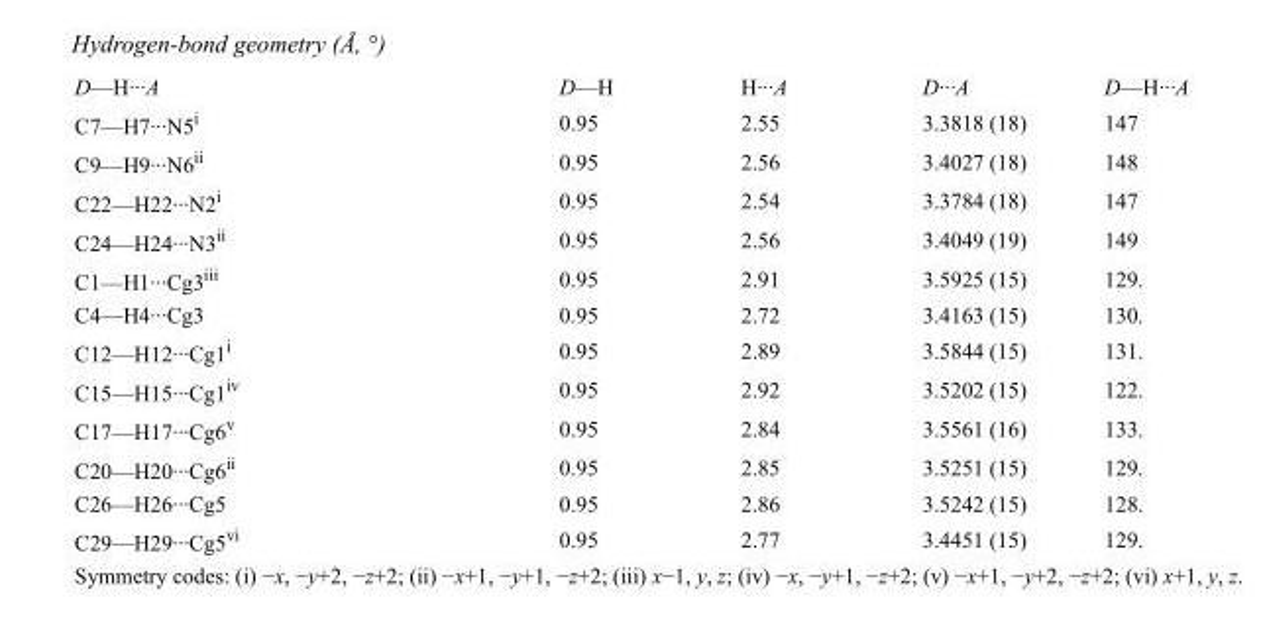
<table><tbody><tr><td>D—H···A</td><td>D—H</td><td>H···A</td><td>D···A</td><td>D—H···A</td></tr><tr><td>C7—H7···N5<sup>i</sup></td><td>0.95</td><td>2.55</td><td>3.3818 (18)</td><td>147</td></tr><tr><td>C9—H9···N6<sup>ii</sup></td><td>0.95</td><td>2.56</td><td>3.4027 (18)</td><td>148</td></tr><tr><td>C22—H22···N2<sup>i</sup></td><td>0.95</td><td>2.54</td><td>3.3784 (18)</td><td>147</td></tr><tr><td>C24—H24···N3<sup>ii</sup></td><td>0.95</td><td>2.56</td><td>3.4049 (19)</td><td>149</td></tr><tr><td>C1—H1···Cg3<sup>iii</sup></td><td>0.95</td><td>2.91</td><td>3.5925 (15)</td><td>129.</td></tr><tr><td>C4—H4···Cg3</td><td>0.95</td><td>2.72</td><td>3.4163 (15)</td><td>130.</td></tr><tr><td>C12—H12···Cg1<sup>i</sup></td><td>0.95</td><td>2.89</td><td>3.5844 (15)</td><td>131.</td></tr><tr><td>C15—H15···Cg1<sup>iv</sup></td><td>0.95</td><td>2.92</td><td>3.5202 (15)</td><td>122.</td></tr><tr><td>C17—H17···Cg6<sup>v</sup></td><td>0.95</td><td>2.84</td><td>3.5561 (16)</td><td>133.</td></tr><tr><td>C20—H20···Cg6<sup>ii</sup></td><td>0.95</td><td>2.85</td><td>3.5251 (15)</td><td>129.</td></tr><tr><td>C26—H26···Cg5</td><td>0.95</td><td>2.86</td><td>3.5242 (15)</td><td>128.</td></tr><tr><td>C29—H29···Cg5<sup>vi</sup></td><td>0.95</td><td>2.77</td><td>3.4451 (15)</td><td>129.</td></tr></tbody></table>